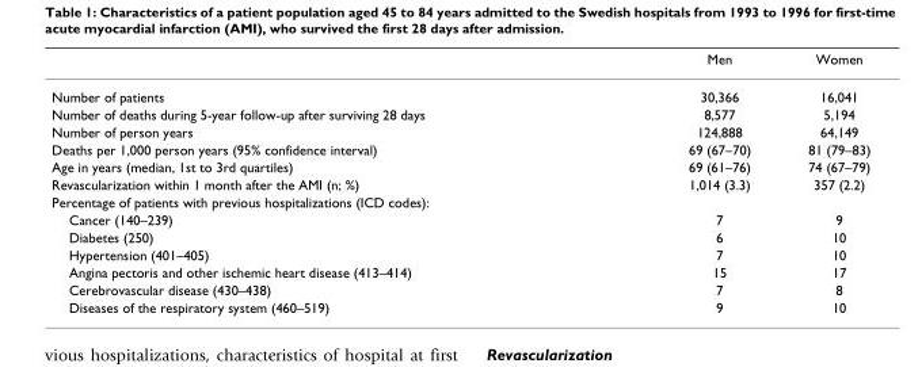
<table><thead><tr><td></td><td>Men</td><td>Women</td></tr></thead><tbody><tr><td>Number of patients</td><td>30,366</td><td>16,041</td></tr><tr><td>Number of deaths during 5-year follow-up after surviving 28 days</td><td>8,577</td><td>5,194</td></tr><tr><td>Number of person years</td><td>124,888</td><td>64,149</td></tr><tr><td>Deaths per 1,000 person years (95% confidence interval)</td><td>69 (67–70)</td><td>81 (79–83)</td></tr><tr><td>Age in years (median, 1st to 3rd quartiles)</td><td>69 (61–76)</td><td>74 (67–79)</td></tr><tr><td>Revascularization within 1 month after the AMI (n; %)</td><td>1,014 (3.3)</td><td>357 (2.2)</td></tr><tr><td colspan="3">Percentage of patients with previous hospitalizations (ICD codes):</td></tr><tr><td>Cancer (140–239)</td><td>7</td><td>9</td></tr><tr><td>Diabetes (250)</td><td>6</td><td>10</td></tr><tr><td>Hypertension (401–405)</td><td>7</td><td>10</td></tr><tr><td>Angina pectoris and other ischemic heart disease (413–414)</td><td>15</td><td>17</td></tr><tr><td>Cerebrovascular disease (430–438)</td><td>7</td><td>8</td></tr><tr><td>Diseases of the respiratory system (460–519)</td><td>9</td><td>10</td></tr></tbody></table>